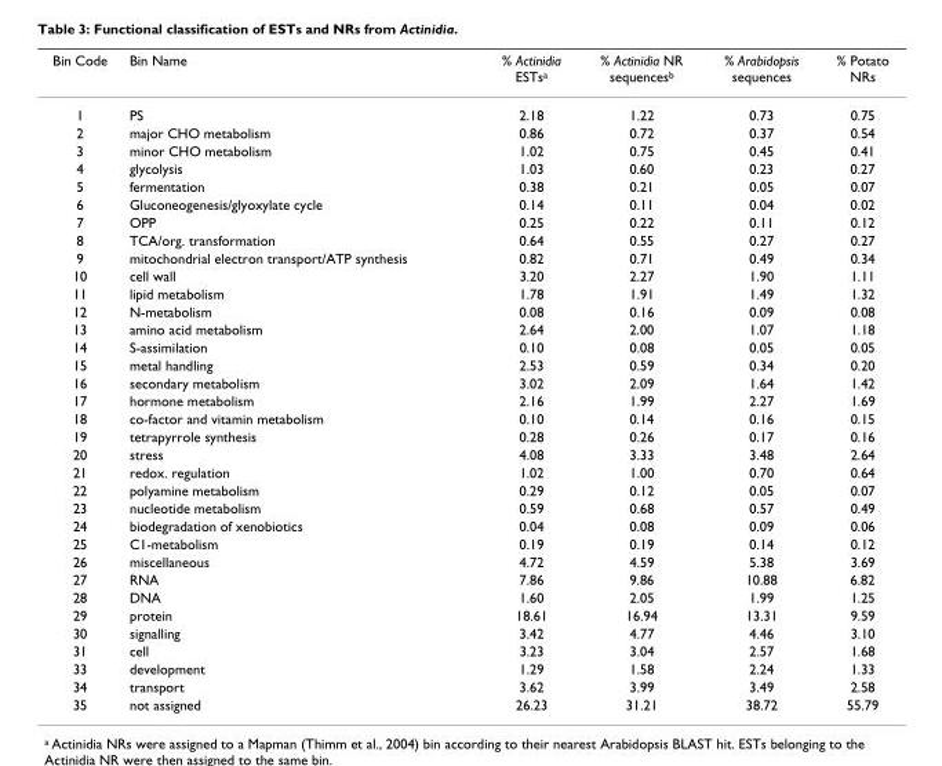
<table><thead><tr><td>Bin Code</td><td>Bin Name</td><td>% Actinidia ESTs<sup>a</sup></td><td>% Actinidia NR sequences<sup>b</sup></td><td>% Arabidopsis sequences</td><td>% Potato NRs</td></tr></thead><tbody><tr><td>1</td><td>PS</td><td>2.18</td><td>1.22</td><td>0.73</td><td>0.75</td></tr><tr><td>2</td><td>major CHO metabolism</td><td>0.86</td><td>0.72</td><td>0.37</td><td>0.54</td></tr><tr><td>3</td><td>minor CHO metabolism</td><td>1.02</td><td>0.75</td><td>0.45</td><td>0.41</td></tr><tr><td>4</td><td>glycolysis</td><td>1.03</td><td>0.60</td><td>0.23</td><td>0.27</td></tr><tr><td>5</td><td>fermentation</td><td>0.38</td><td>0.21</td><td>0.05</td><td>0.07</td></tr><tr><td>6</td><td>Gluconeogenesis/glyoxylate cycle</td><td>0.14</td><td>0.11</td><td>0.04</td><td>0.02</td></tr><tr><td>7</td><td>OPP</td><td>0.25</td><td>0.22</td><td>0.11</td><td>0.12</td></tr><tr><td>8</td><td>TCA/org. transformation</td><td>0.64</td><td>0.55</td><td>0.27</td><td>0.27</td></tr><tr><td>9</td><td>mitochondrial electron transport/ATP synthesis</td><td>0.82</td><td>0.71</td><td>0.49</td><td>0.34</td></tr><tr><td>10</td><td>cell wall</td><td>3.20</td><td>2.27</td><td>1.90</td><td>1.11</td></tr><tr><td>11</td><td>lipid metabolism</td><td>1.78</td><td>1.91</td><td>1.49</td><td>1.32</td></tr><tr><td>12</td><td>N-metabolism</td><td>0.08</td><td>0.16</td><td>0.09</td><td>0.08</td></tr><tr><td>13</td><td>amino acid metabolism</td><td>2.64</td><td>2.00</td><td>1.07</td><td>1.18</td></tr><tr><td>14</td><td>S-assimilation</td><td>0.10</td><td>0.08</td><td>0.05</td><td>0.05</td></tr><tr><td>15</td><td>metal handling</td><td>2.53</td><td>0.59</td><td>0.34</td><td>0.20</td></tr><tr><td>16</td><td>secondary metabolism</td><td>3.02</td><td>2.09</td><td>1.64</td><td>1.42</td></tr><tr><td>17</td><td>hormone metabolism</td><td>2.16</td><td>1.99</td><td>2.27</td><td>1.69</td></tr><tr><td>18</td><td>co-factor and vitamin metabolism</td><td>0.10</td><td>0.14</td><td>0.16</td><td>0.15</td></tr><tr><td>19</td><td>tetrapyrrole synthesis</td><td>0.28</td><td>0.26</td><td>0.17</td><td>0.16</td></tr><tr><td>20</td><td>stress</td><td>4.08</td><td>3.33</td><td>3.48</td><td>2.64</td></tr><tr><td>21</td><td>redox. regulation</td><td>1.02</td><td>1.00</td><td>0.70</td><td>0.64</td></tr><tr><td>22</td><td>polyamine metabolism</td><td>0.29</td><td>0.12</td><td>0.05</td><td>0.07</td></tr><tr><td>23</td><td>nucleotide metabolism</td><td>0.59</td><td>0.68</td><td>0.57</td><td>0.49</td></tr><tr><td>24</td><td>biodegradation of xenobiotics</td><td>0.04</td><td>0.08</td><td>0.09</td><td>0.06</td></tr><tr><td>25</td><td>C1-metabolism</td><td>0.19</td><td>0.19</td><td>0.14</td><td>0.12</td></tr><tr><td>26</td><td>miscellaneous</td><td>4.72</td><td>4.59</td><td>5.38</td><td>3.69</td></tr><tr><td>27</td><td>RNA</td><td>7.86</td><td>9.86</td><td>10.88</td><td>6.82</td></tr><tr><td>28</td><td>DNA</td><td>1.60</td><td>2.05</td><td>1.99</td><td>1.25</td></tr><tr><td>29</td><td>protein</td><td>18.61</td><td>16.94</td><td>13.31</td><td>9.59</td></tr><tr><td>30</td><td>signalling</td><td>3.42</td><td>4.77</td><td>4.46</td><td>3.10</td></tr><tr><td>31</td><td>cell</td><td>3.23</td><td>3.04</td><td>2.57</td><td>1.68</td></tr><tr><td>33</td><td>development</td><td>1.29</td><td>1.58</td><td>2.24</td><td>1.33</td></tr><tr><td>34</td><td>transport</td><td>3.62</td><td>3.99</td><td>3.49</td><td>2.58</td></tr><tr><td>35</td><td>not assigned</td><td>26.23</td><td>31.21</td><td>38.72</td><td>55.79</td></tr></tbody></table>